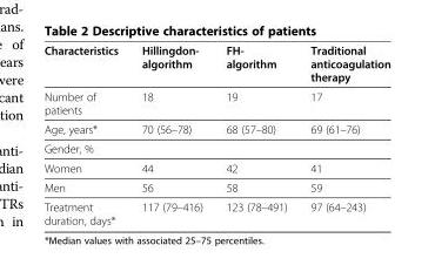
<table><thead><tr><td>Characteristics</td><td>Hillingdon- algorithm</td><td>FH- algorithm</td><td>Traditional anticoagulation therapy</td></tr></thead><tbody><tr><td>Number of patients</td><td>18</td><td>19</td><td>17</td></tr><tr><td>Age, years*</td><td>70 (56–78)</td><td>68 (57–80)</td><td>69 (61–76)</td></tr><tr><td colspan="4">Gender, %</td></tr><tr><td>Women</td><td>44</td><td>42</td><td>41</td></tr><tr><td>Men</td><td>56</td><td>58</td><td>59</td></tr><tr><td>Treatment duration, days*</td><td>117 (79–416)</td><td>123 (78–491)</td><td>97 (64–243)</td></tr></tbody></table>